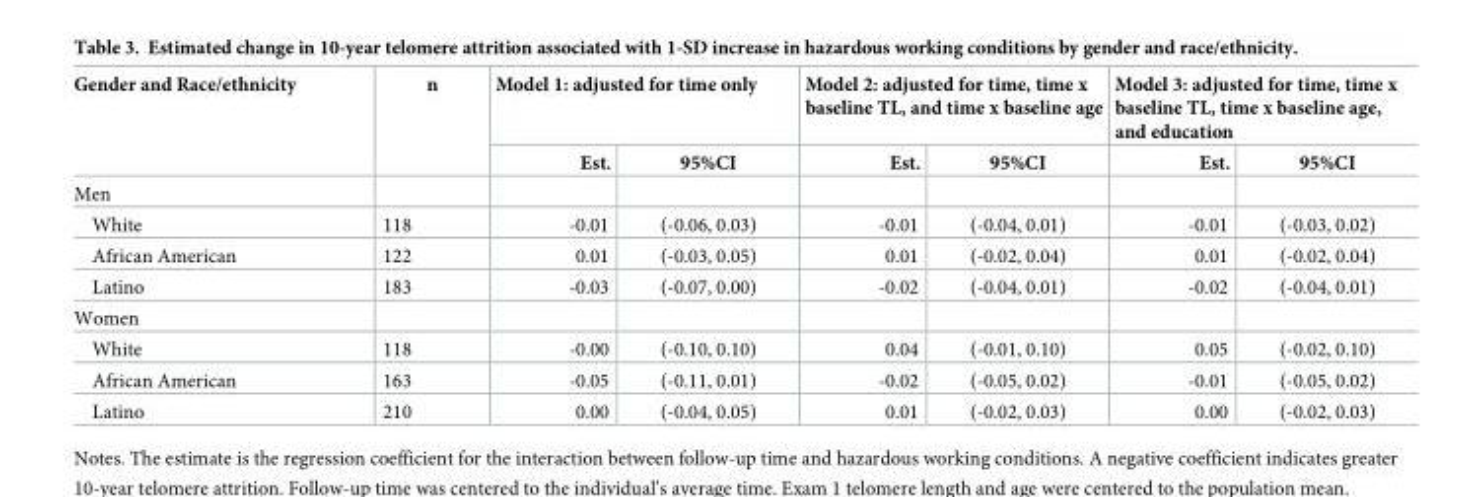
<table><thead><tr><td rowspan="2">Gender and Race/ethnicity</td><td rowspan="2">n</td><td colspan="2">Model 1: adjusted for time only</td><td colspan="2">Model 2: adjusted for time, time x baseline TL, and time x baseline age</td><td colspan="2">Model 3: adjusted for time, time x baseline TL, time x baseline age, and education</td></tr><tr><td>Est.</td><td>95%CI</td><td>Est.</td><td>95%CI</td><td>Est.</td><td>95%CI</td></tr></thead><tbody><tr><td colspan="8">Men</td></tr><tr><td>White</td><td>118</td><td>-0.01</td><td>(-0.06, 0.03)</td><td>-0.01</td><td>(-0.04, 0.01)</td><td>-0.01</td><td>(-0.03, 0.02)</td></tr><tr><td>African American</td><td>122</td><td>0.01</td><td>(-0.03, 0.05)</td><td>0.01</td><td>(-0.02, 0.04)</td><td>0.01</td><td>(-0.02, 0.04)</td></tr><tr><td>Latino</td><td>183</td><td>-0.03</td><td>(-0.07, 0.00)</td><td>-0.02</td><td>(-0.04, 0.01)</td><td>-0.02</td><td>(-0.04, 0.01)</td></tr><tr><td colspan="8">Women</td></tr><tr><td>White</td><td>118</td><td>-0.00</td><td>(-0.10, 0.10)</td><td>0.04</td><td>(-0.01, 0.10)</td><td>0.05</td><td>(-0.02, 0.10)</td></tr><tr><td>African American</td><td>163</td><td>-0.05</td><td>(-0.11, 0.01)</td><td>-0.02</td><td>(-0.05, 0.02)</td><td>-0.01</td><td>(-0.05, 0.02)</td></tr><tr><td>Latino</td><td>210</td><td>0.00</td><td>(-0.04, 0.05)</td><td>0.01</td><td>(-0.02, 0.03)</td><td>0.00</td><td>(-0.02, 0.03)</td></tr></tbody></table>